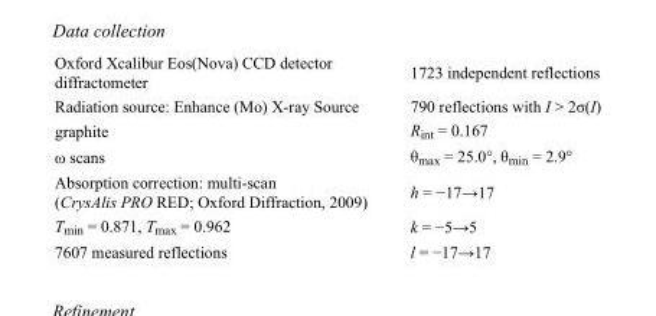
<table><tbody><tr><td>Oxford Xcalibur Eos(Nova) CCD detector diffractometer</td><td>1723 independent reflections</td></tr><tr><td>Radiation source: Enhance (Mo) X-ray Source</td><td>790 reflections with I &gt; 2σ(I)</td></tr><tr><td>graphite</td><td>R<sub>int</sub> = 0.167</td></tr><tr><td>ω scans</td><td>θ<sub>max</sub> = 25.0°, θ<sub>min</sub> = 2.9°</td></tr><tr><td>Absorption correction: multi-scan (CrysAlis PRO RED; Oxford Diffraction, 2009)</td><td>h = −17→17</td></tr><tr><td>T<sub>min</sub> = 0.871, T<sub>max</sub> = 0.962</td><td>k = −5→5</td></tr><tr><td>7607 measured reflections</td><td>l = −17→17</td></tr></tbody></table>